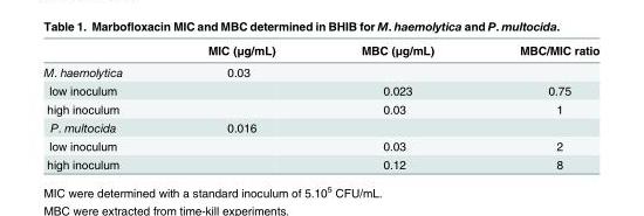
<table><thead><tr><td></td><td>MIC (μg/mL)</td><td>MBC (μg/mL)</td><td>MBC/MIC ratio</td></tr></thead><tbody><tr><td>M. haemolytica</td><td>0.03</td><td></td><td></td></tr><tr><td>low inoculum</td><td></td><td>0.023</td><td>0.75</td></tr><tr><td>high inoculum</td><td></td><td>0.03</td><td>1</td></tr><tr><td>P. multocida</td><td>0.016</td><td></td><td></td></tr><tr><td>low inoculum</td><td></td><td>0.03</td><td>2</td></tr><tr><td>high inoculum</td><td></td><td>0.12</td><td>8</td></tr></tbody></table>